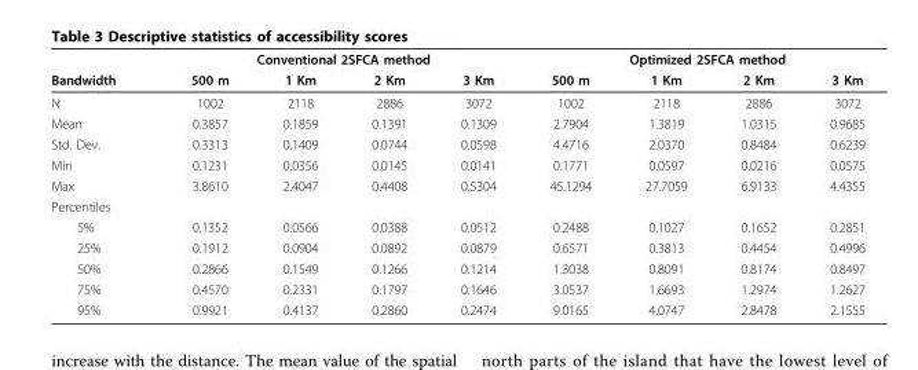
<table><thead><tr><td rowspan="2">Bandwidth</td><td colspan="4">Conventional 2SFCA method</td><td colspan="4">Optimized 2SFCA method</td></tr><tr><td>500 m</td><td>1 Km</td><td>2 Km</td><td>3 Km</td><td>500 m</td><td>1 Km</td><td>2 Km</td><td>3 Km</td></tr></thead><tbody><tr><td>N</td><td>1002</td><td>2118</td><td>2886</td><td>3072</td><td>1002</td><td>2118</td><td>2886</td><td>3072</td></tr><tr><td>Mean</td><td>0.3857</td><td>0.1859</td><td>0.1391</td><td>0.1309</td><td>2.7904</td><td>1.3819</td><td>1.0315</td><td>0.9685</td></tr><tr><td>Std. Dev.</td><td>0.3313</td><td>0.1409</td><td>0.0744</td><td>0.0598</td><td>4.4716</td><td>2.0370</td><td>0.8484</td><td>0.6239</td></tr><tr><td>Min</td><td>0.1231</td><td>0.0356</td><td>0.0145</td><td>0.0141</td><td>0.1771</td><td>0.0597</td><td>0.0216</td><td>0.0575</td></tr><tr><td>Max</td><td>3.8610</td><td>2.4047</td><td>0.4408</td><td>0.5304</td><td>45.1294</td><td>27.7059</td><td>6.9133</td><td>4.4355</td></tr><tr><td colspan="9">Percentiles</td></tr><tr><td>5%</td><td>0.1352</td><td>0.0566</td><td>0.0388</td><td>0.0512</td><td>0.2488</td><td>0.1027</td><td>0.1652</td><td>0.2851</td></tr><tr><td>25%</td><td>0.1912</td><td>0.0904</td><td>0.0892</td><td>0.0879</td><td>0.6571</td><td>0.3813</td><td>0.4454</td><td>0.4996</td></tr><tr><td>50%</td><td>0.2866</td><td>0.1549</td><td>0.1266</td><td>0.1214</td><td>1.3038</td><td>0.8091</td><td>0.8174</td><td>0.8497</td></tr><tr><td>75%</td><td>0.4570</td><td>0.2331</td><td>0.1797</td><td>0.1646</td><td>3.0537</td><td>1.6693</td><td>1.2974</td><td>1.2627</td></tr><tr><td>95%</td><td>0.9921</td><td>0.4137</td><td>0.2860</td><td>0.2474</td><td>9.0165</td><td>4.0747</td><td>2.8478</td><td>2.1555</td></tr></tbody></table>